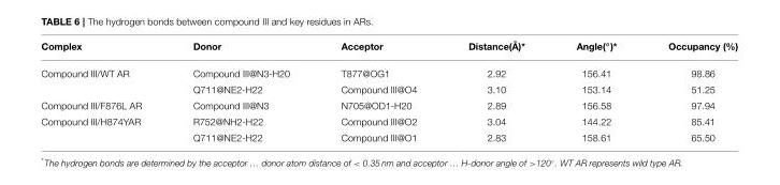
<table><thead><tr><td>Complex</td><td>Donor</td><td>Acceptor</td><td>Distance(Å)*</td><td>Angle(◦)*</td><td>Occupancy (%)</td></tr></thead><tbody><tr><td rowspan="2">Compound III/WT AR</td><td>Compound III@N3-H20</td><td>T877@OG1</td><td>2.92</td><td>156.41</td><td>98.86</td></tr><tr><td>Q711@NE2-H22</td><td>Compound III@O4</td><td>3.10</td><td>153.14</td><td>51.25</td></tr><tr><td>Compound III/F876L AR</td><td>Compound III@N3</td><td>N705@OD1-H20</td><td>2.89</td><td>156.58</td><td>97.94</td></tr><tr><td rowspan="2">Compound III/H874YAR</td><td>R752@NH2-H22</td><td>Compound III@O2</td><td>3.04</td><td>144.22</td><td>85.41</td></tr><tr><td>Q711@NE2-H22</td><td>Compound III@O1</td><td>2.83</td><td>158.61</td><td>65.50</td></tr></tbody></table>